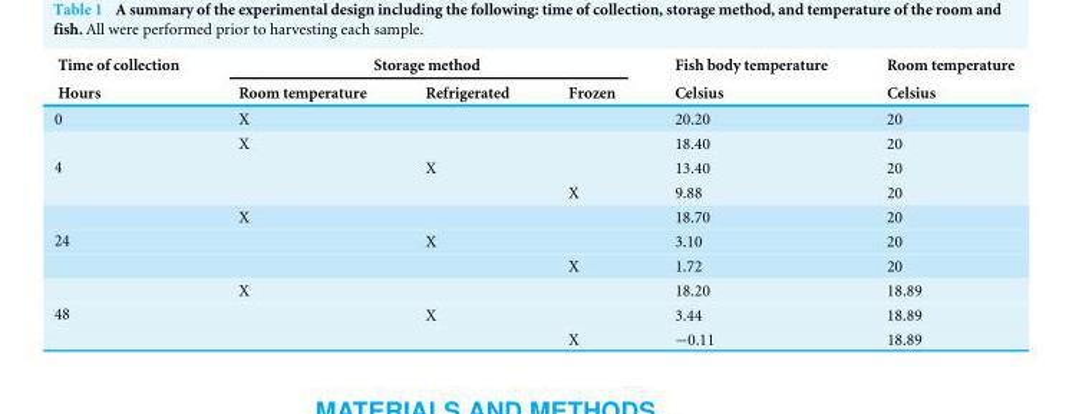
<table><thead><tr><td rowspan="2">Time of collection Hours</td><td colspan="3">Storage method</td><td rowspan="2">Fish body temperature Celsius</td><td rowspan="2">Room temperature Celsius</td></tr><tr><td>Room temperature</td><td>Refrigerated</td><td>Frozen</td></tr></thead><tbody><tr><td>0</td><td>X</td><td></td><td></td><td>20.20</td><td>20</td></tr><tr><td rowspan="3">4</td><td>X</td><td></td><td></td><td>18.40</td><td>20</td></tr><tr><td></td><td>X</td><td></td><td>13.40</td><td>20</td></tr><tr><td></td><td></td><td>X</td><td>9.88</td><td>20</td></tr><tr><td rowspan="3">24</td><td>X</td><td></td><td></td><td>18.70</td><td>20</td></tr><tr><td></td><td>X</td><td></td><td>3.10</td><td>20</td></tr><tr><td></td><td></td><td>X</td><td>1.72</td><td>20</td></tr><tr><td rowspan="3">48</td><td>X</td><td></td><td></td><td>18.20</td><td>18.89</td></tr><tr><td></td><td>X</td><td></td><td>3.44</td><td>18.89</td></tr><tr><td></td><td></td><td>X</td><td>−0.11</td><td>18.89</td></tr></tbody></table>